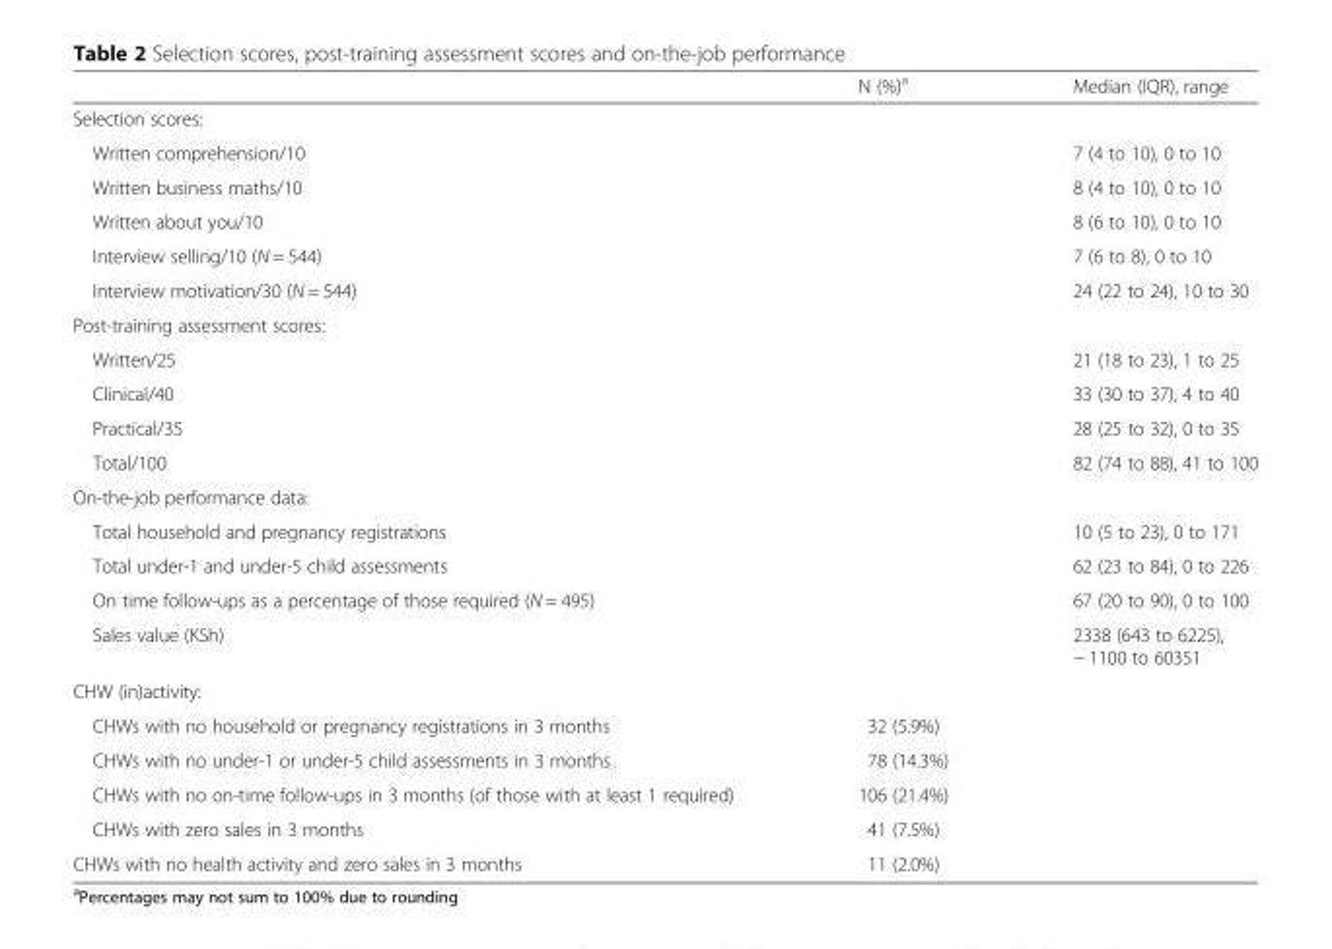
<table><thead><tr><td></td><td>N (%)<sup>a</sup></td><td>Median (IQR), range</td></tr></thead><tbody><tr><td colspan="3">Selection scores:</td></tr><tr><td>Written comprehension/10</td><td></td><td>7 (4 to 10), 0 to 10</td></tr><tr><td>Written business maths/10</td><td></td><td>8 (4 to 10), 0 to 10</td></tr><tr><td>Written about you/10</td><td></td><td>8 (6 to 10), 0 to 10</td></tr><tr><td>Interview selling/10 (N = 544)</td><td></td><td>7 (6 to 8), 0 to 10</td></tr><tr><td>Interview motivation/30 (N = 544)</td><td></td><td>24 (22 to 24), 10 to 30</td></tr><tr><td colspan="3">Post-training assessment scores:</td></tr><tr><td>Written/25</td><td></td><td>21 (18 to 23), 1 to 25</td></tr><tr><td>Clinical/40</td><td></td><td>33 (30 to 37), 4 to 40</td></tr><tr><td>Practical/35</td><td></td><td>28 (25 to 32), 0 to 35</td></tr><tr><td>Total/100</td><td></td><td>82 (74 to 88), 41 to 100</td></tr><tr><td colspan="3">On-the-job performance data:</td></tr><tr><td>Total household and pregnancy registrations</td><td></td><td>10 (5 to 23), 0 to 171</td></tr><tr><td>Total under-1 and under-5 child assessments</td><td></td><td>62 (23 to 84), 0 to 226</td></tr><tr><td>On time follow-ups as a percentage of those required (N = 495)</td><td></td><td>67 (20 to 90), 0 to 100</td></tr><tr><td>Sales value (KSh)</td><td></td><td>2338 (643 to 6225), − 1100 to 60351</td></tr><tr><td colspan="3">CHW (in)activity:</td></tr><tr><td>CHWs with no household or pregnancy registrations in 3 months</td><td>32 (5.9%)</td><td></td></tr><tr><td>CHWs with no under-1 or under-5 child assessments in 3 months</td><td>78 (14.3%)</td><td></td></tr><tr><td>CHWs with no on-time follow-ups in 3 months (of those with at least 1 required)</td><td>106 (21.4%)</td><td></td></tr><tr><td>CHWs with zero sales in 3 months</td><td>41 (7.5%)</td><td></td></tr><tr><td>CHWs with no health activity and zero sales in 3 months</td><td>11 (2.0%)</td><td></td></tr></tbody></table>